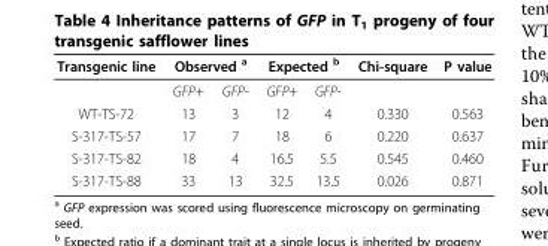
<table><thead><tr><td rowspan="2">Transgenic line</td><td colspan="2">Observed <sup>a</sup></td><td colspan="2">Expected <sup>b</sup></td><td rowspan="2">Chi-square</td><td rowspan="2">P value</td></tr><tr><td>GFP+</td><td>GFP-</td><td>GFP+</td><td>GFP-</td></tr></thead><tbody><tr><td>WT-TS-72</td><td>13</td><td>3</td><td>12</td><td>4</td><td>0.330</td><td>0.563</td></tr><tr><td>S-317-TS-57</td><td>17</td><td>7</td><td>18</td><td>6</td><td>0.220</td><td>0.637</td></tr><tr><td>S-317-TS-82</td><td>18</td><td>4</td><td>16.5</td><td>5.5</td><td>0.545</td><td>0.460</td></tr><tr><td>S-317-TS-88</td><td>33</td><td>13</td><td>32.5</td><td>13.5</td><td>0.026</td><td>0.871</td></tr></tbody></table>